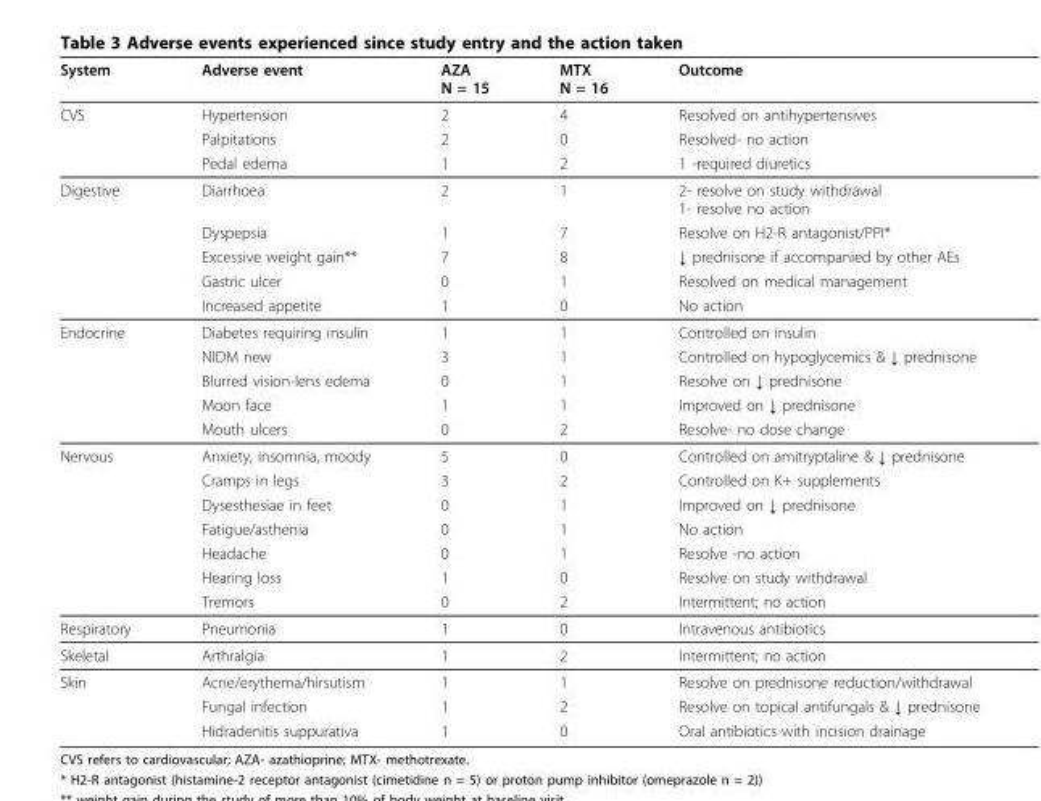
<table><thead><tr><td>System</td><td>Adverse event</td><td>AZA N = 15</td><td>MTX N = 16</td><td>Outcome</td></tr></thead><tbody><tr><td rowspan="3">CVS</td><td>Hypertension</td><td>2</td><td>4</td><td>Resolved on antihypertensives</td></tr><tr><td>Palpitations</td><td>2</td><td>0</td><td>Resolved- no action</td></tr><tr><td>Pedal edema</td><td>1</td><td>2</td><td>1 -required diuretics</td></tr><tr><td rowspan="5">Digestive</td><td>Diarrhoea</td><td>2</td><td>1</td><td>2- resolve on study withdrawal 1- resolve no action</td></tr><tr><td>Dyspepsia</td><td>1</td><td>7</td><td>Resolve on H2-R antagonist/PPI*</td></tr><tr><td>Excessive weight gain**</td><td>7</td><td>8</td><td>↓ prednisone if accompanied by other AEs</td></tr><tr><td>Gastric ulcer</td><td>0</td><td>1</td><td>Resolved on medical management</td></tr><tr><td>Increased appetite</td><td>1</td><td>0</td><td>No action</td></tr><tr><td rowspan="5">Endocrine</td><td>Diabetes requiring insulin</td><td>1</td><td>1</td><td>Controlled on insulin</td></tr><tr><td>NIDM new</td><td>3</td><td>1</td><td>Controlled on hypoglycemics &amp; ↓ prednisone</td></tr><tr><td>Blurred vision-lens edema</td><td>0</td><td>1</td><td>Resolve on ↓ prednisone</td></tr><tr><td>Moon face</td><td>1</td><td>1</td><td>Improved on ↓ prednisone</td></tr><tr><td>Mouth ulcers</td><td>0</td><td>2</td><td>Resolve- no dose change</td></tr><tr><td rowspan="7">Nervous</td><td>Anxiety, insomnia, moody</td><td>5</td><td>0</td><td>Controlled on amitryptaline &amp; ↓ prednisone</td></tr><tr><td>Cramps in legs</td><td>3</td><td>2</td><td>Controlled on K+ supplements</td></tr><tr><td>Dysesthesiae in feet</td><td>0</td><td>1</td><td>Improved on ↓ prednisone</td></tr><tr><td>Fatigue/asthenia</td><td>0</td><td>1</td><td>No action</td></tr><tr><td>Headache</td><td>0</td><td>1</td><td>Resolve -no action</td></tr><tr><td>Hearing loss</td><td>1</td><td>0</td><td>Resolve on study withdrawal</td></tr><tr><td>Tremors</td><td>0</td><td>2</td><td>Intermittent; no action</td></tr><tr><td>Respiratory</td><td>Pneumonia</td><td>1</td><td>0</td><td>Intravenous antibiotics</td></tr><tr><td>Skeletal</td><td>Arthralgia</td><td>1</td><td>2</td><td>Intermittent; no action</td></tr><tr><td rowspan="3">Skin</td><td>Acne/erythema/hirsutism</td><td>1</td><td>1</td><td>Resolve on prednisone reduction/withdrawal</td></tr><tr><td>Fungal infection</td><td>1</td><td>2</td><td>Resolve on topical antifungals &amp; ↓ prednisone</td></tr><tr><td>Hidradenitis suppurativa</td><td>1</td><td>0</td><td>Oral antibiotics with incision drainage</td></tr></tbody></table>